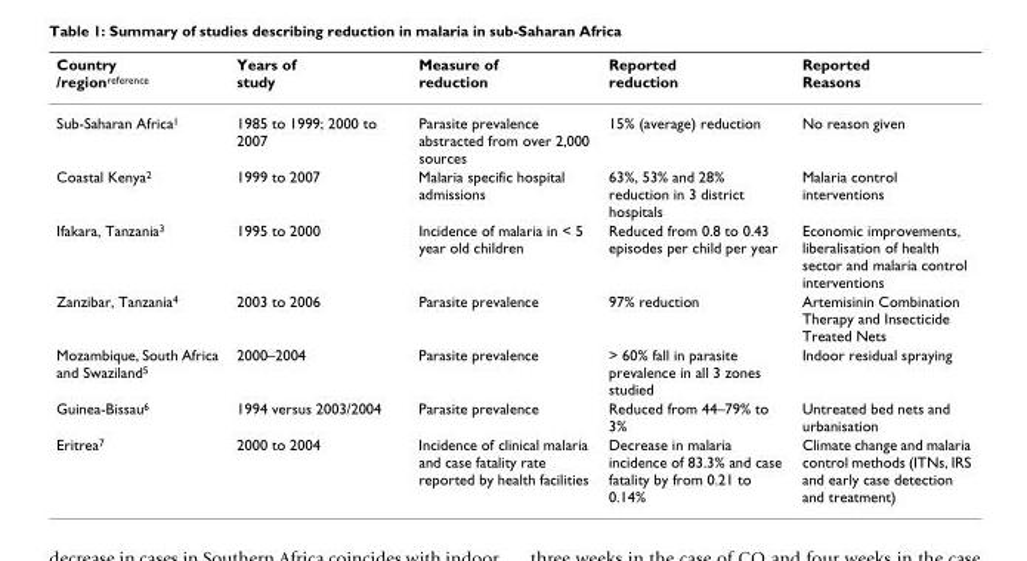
<table><thead><tr><td>Country /region<sup>reference</sup></td><td>Years of study</td><td>Measure of reduction</td><td>Reported reduction</td><td>Reported Reasons</td></tr></thead><tbody><tr><td>Sub-Saharan Africa<sup>1</sup></td><td>1985 to 1999; 2000 to 2007</td><td>Parasite prevalence abstracted from over 2,000 sources</td><td>15% (average) reduction</td><td>No reason given</td></tr><tr><td>Coastal Kenya<sup>2</sup></td><td>1999 to 2007</td><td>Malaria specific hospital admissions</td><td>63%, 53% and 28% reduction in 3 district hospitals</td><td>Malaria control interventions</td></tr><tr><td>Ifakara, Tanzania<sup>3</sup></td><td>1995 to 2000</td><td>Incidence of malaria in &lt; 5 year old children</td><td>Reduced from 0.8 to 0.43 episodes per child per year</td><td>Economic improvements, liberalisation of health sector and malaria control interventions</td></tr><tr><td>Zanzibar, Tanzania<sup>4</sup></td><td>2003 to 2006</td><td>Parasite prevalence</td><td>97% reduction</td><td>Artemisinin Combination Therapy and Insecticide Treated Nets</td></tr><tr><td>Mozambique, South Africa and Swaziland<sup>5</sup></td><td>2000–2004</td><td>Parasite prevalence</td><td>&gt; 60% fall in parasite prevalence in all 3 zones studied</td><td>Indoor residual spraying</td></tr><tr><td>Guinea-Bissau<sup>6</sup></td><td>1994 versus 2003/2004</td><td>Parasite prevalence</td><td>Reduced from 44–79% to 3%</td><td>Untreated bed nets and urbanisation</td></tr><tr><td>Eritrea<sup>7</sup></td><td>2000 to 2004</td><td>Incidence of clinical malaria and case fatality rate reported by health facilities</td><td>Decrease in malaria incidence of 83.3% and case fatality by from 0.21 to 0.14%</td><td>Climate change and malaria control methods (ITNs, IRS and early case detection and treatment)</td></tr></tbody></table>